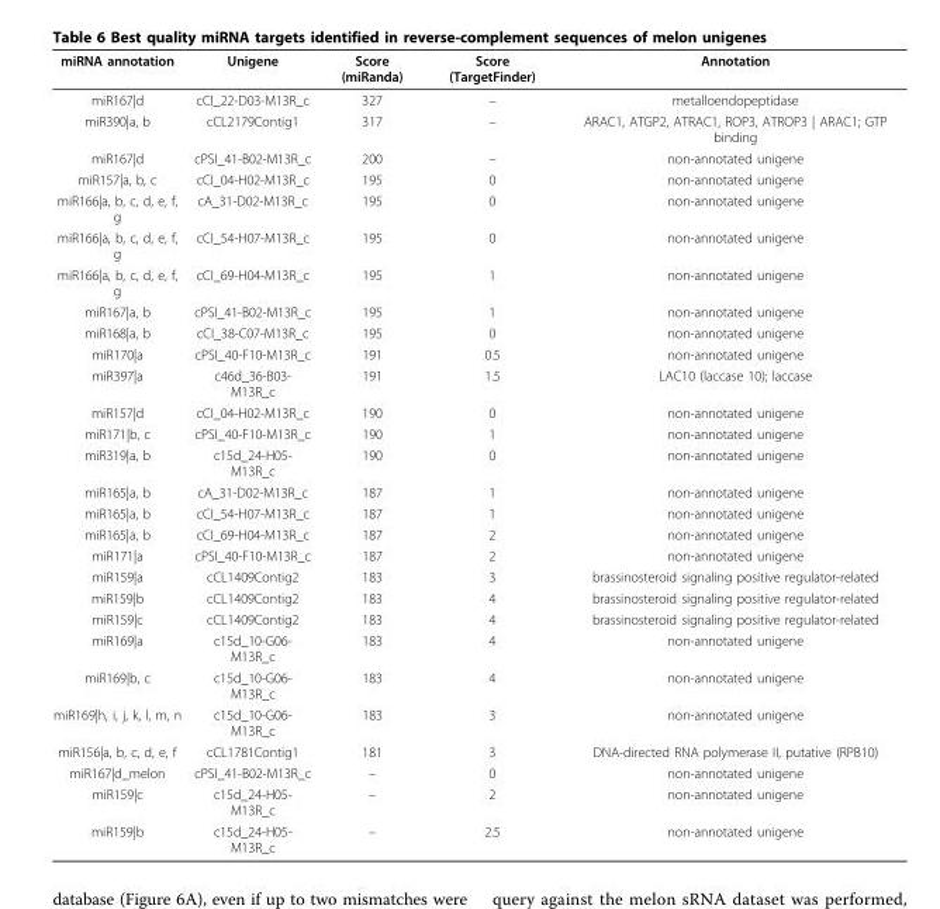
<table><thead><tr><td>miRNA annotation</td><td>Unigene</td><td>Score (miRanda)</td><td>Score (TargetFinder)</td><td>Annotation</td></tr></thead><tbody><tr><td>miR167|d</td><td>cCI_22-D03-M13R_c</td><td>327</td><td>–</td><td>metalloendopeptidase</td></tr><tr><td>miR390|a, b</td><td>cCL2179Contig1</td><td>317</td><td>–</td><td>ARAC1, ATGP2, ATRAC1, ROP3, ATROP3 | ARAC1; GTP binding</td></tr><tr><td>miR167|d</td><td>cPSI_41-B02-M13R_c</td><td>200</td><td>–</td><td>non-annotated unigene</td></tr><tr><td>miR157|a, b, c</td><td>cCI_04-H02-M13R_c</td><td>195</td><td>0</td><td>non-annotated unigene</td></tr><tr><td>miR166|a, b, c, d, e, f, g</td><td>cA_31-D02-M13R_c</td><td>195</td><td>0</td><td>non-annotated unigene</td></tr><tr><td>miR166|a, b, c, d, e, f, g</td><td>cCI_54-H07-M13R_c</td><td>195</td><td>0</td><td>non-annotated unigene</td></tr><tr><td>miR166|a, b, c, d, e, f, g</td><td>cCI_69-H04-M13R_c</td><td>195</td><td>1</td><td>non-annotated unigene</td></tr><tr><td>miR167|a, b</td><td>cPSI_41-B02-M13R_c</td><td>195</td><td>1</td><td>non-annotated unigene</td></tr><tr><td>miR168|a, b</td><td>cCI_38-C07-M13R_c</td><td>195</td><td>0</td><td>non-annotated unigene</td></tr><tr><td>miR170|a</td><td>cPSI_40-F10-M13R_c</td><td>191</td><td>0.5</td><td>non-annotated unigene</td></tr><tr><td>miR397|a</td><td>c46d_36-B03- M13R_c</td><td>191</td><td>1.5</td><td>LAC10 (laccase 10); laccase</td></tr><tr><td>miR157|d</td><td>cCI_04-H02-M13R_c</td><td>190</td><td>0</td><td>non-annotated unigene</td></tr><tr><td>miR171|b, c</td><td>cPSI_40-F10-M13R_c</td><td>190</td><td>1</td><td>non-annotated unigene</td></tr><tr><td>miR319|a, b</td><td>c15d_24-H05- M13R_c</td><td>190</td><td>0</td><td>non-annotated unigene</td></tr><tr><td>miR165|a, b</td><td>cA_31-D02-M13R_c</td><td>187</td><td>1</td><td>non-annotated unigene</td></tr><tr><td>miR165|a, b</td><td>cCI_54-H07-M13R_c</td><td>187</td><td>1</td><td>non-annotated unigene</td></tr><tr><td>miR165|a, b</td><td>cCI_69-H04-M13R_c</td><td>187</td><td>2</td><td>non-annotated unigene</td></tr><tr><td>miR171|a</td><td>cPSI_40-F10-M13R_c</td><td>187</td><td>2</td><td>non-annotated unigene</td></tr><tr><td>miR159|a</td><td>cCL1409Contig2</td><td>183</td><td>3</td><td>brassinosteroid signaling positive regulator-related</td></tr><tr><td>miR159|b</td><td>cCL1409Contig2</td><td>183</td><td>4</td><td>brassinosteroid signaling positive regulator-related</td></tr><tr><td>miR159|c</td><td>cCL1409Contig2</td><td>183</td><td>4</td><td>brassinosteroid signaling positive regulator-related</td></tr><tr><td>miR169|a</td><td>c15d_10-G06- M13R_c</td><td>183</td><td>4</td><td>non-annotated unigene</td></tr><tr><td>miR169|b, c</td><td>c15d_10-G06- M13R_c</td><td>183</td><td>4</td><td>non-annotated unigene</td></tr><tr><td>miR169|h, i, j, k, l, m, n</td><td>c15d_10-G06- M13R_c</td><td>183</td><td>3</td><td>non-annotated unigene</td></tr><tr><td>miR156|a, b, c, d, e, f</td><td>cCL1781Contig1</td><td>181</td><td>3</td><td>DNA-directed RNA polymerase II, putative (RPB10)</td></tr><tr><td>miR167|d_melon</td><td>cPSI_41-B02-M13R_c</td><td>–</td><td>0</td><td>non-annotated unigene</td></tr><tr><td>miR159|c</td><td>c15d_24-H05- M13R_c</td><td>–</td><td>2</td><td>non-annotated unigene</td></tr><tr><td>miR159|b</td><td>c15d_24-H05- M13R_c</td><td>–</td><td>2.5</td><td>non-annotated unigene</td></tr></tbody></table>